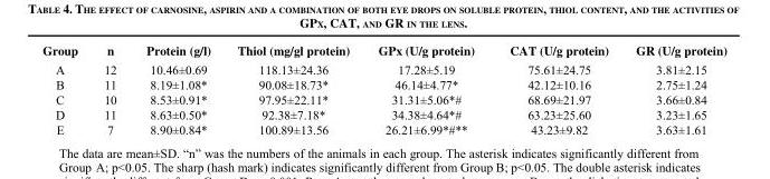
<table><thead><tr><td>Group</td><td>n</td><td>Protein (g/l)</td><td>Thiol (mg/gl protein)</td><td>GPx (U/g protein)</td><td>CAT (U/g protein)</td><td>GR (U/g protein)</td></tr></thead><tbody><tr><td>A</td><td>12</td><td>10.46±0.69</td><td>118.13±24.36</td><td>17.28±5.19</td><td>75.61±24.75</td><td>3.81±2.15</td></tr><tr><td>B</td><td>11</td><td>8.19±1.08*</td><td>90.08±18.73*</td><td>46.14±4.77*</td><td>42.12±10.16</td><td>2.75±1.24</td></tr><tr><td>C</td><td>10</td><td>8.53±0.91*</td><td>97.95±22.11*</td><td>31.31±5.06*#</td><td>68.69±21.97</td><td>3.66±0.84</td></tr><tr><td>D</td><td>11</td><td>8.63±0.50*</td><td>92.38±7.18*</td><td>34.38±4.64*#</td><td>63.23±25.60</td><td>3.23±1.65</td></tr><tr><td>E</td><td>7</td><td>8.90±0.84*</td><td>100.89±13.56</td><td>26.21±6.99*#**</td><td>43.23±9.82</td><td>3.63±1.61</td></tr></tbody></table>